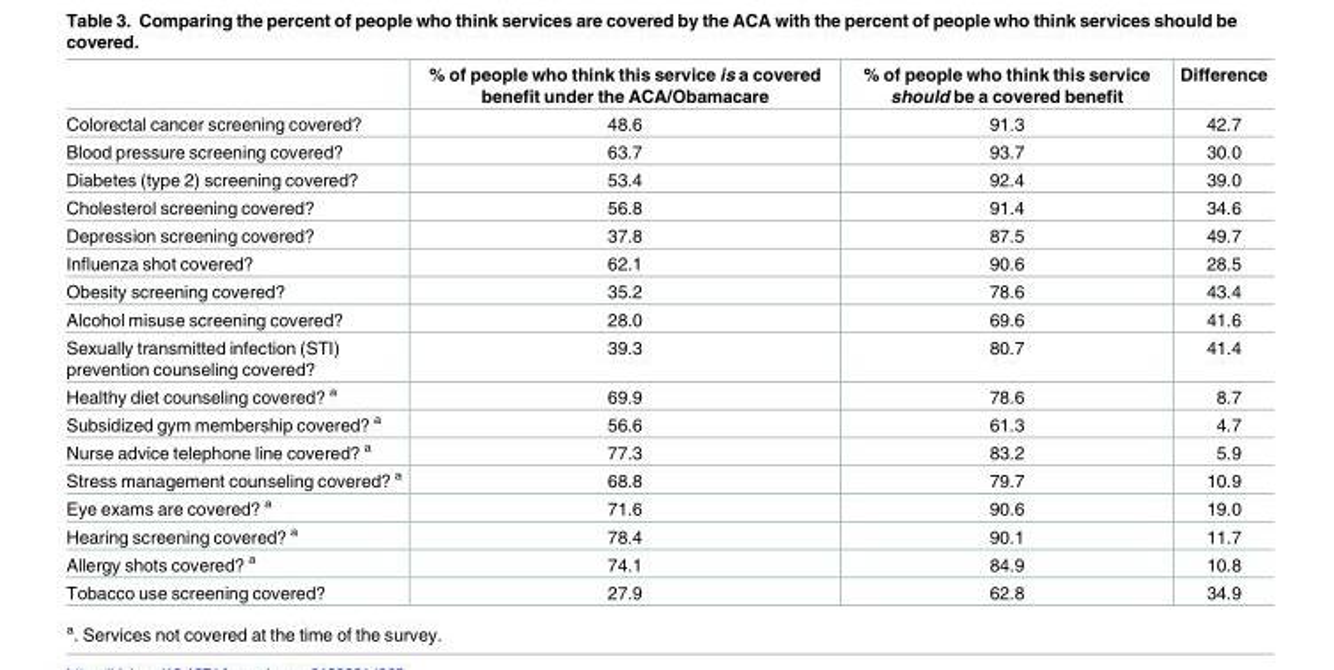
<table><thead><tr><td></td><td>% of people who think this service is a covered benefit under the ACA/Obamacare</td><td>% of people who think this service should be a covered benefit</td><td>Difference</td></tr></thead><tbody><tr><td>Colorectal cancer screening covered?</td><td>48.6</td><td>91.3</td><td>42.7</td></tr><tr><td>Blood pressure screening covered?</td><td>63.7</td><td>93.7</td><td>30.0</td></tr><tr><td>Diabetes (type 2) screening covered?</td><td>53.4</td><td>92.4</td><td>39.0</td></tr><tr><td>Cholesterol screening covered?</td><td>56.8</td><td>91.4</td><td>34.6</td></tr><tr><td>Depression screening covered?</td><td>37.8</td><td>87.5</td><td>49.7</td></tr><tr><td>Influenza shot covered?</td><td>62.1</td><td>90.6</td><td>28.5</td></tr><tr><td>Obesity screening covered?</td><td>35.2</td><td>78.6</td><td>43.4</td></tr><tr><td>Alcohol misuse screening covered?</td><td>28.0</td><td>69.6</td><td>41.6</td></tr><tr><td>Sexually transmitted infection (STI) prevention counseling covered?</td><td>39.3</td><td>80.7</td><td>41.4</td></tr><tr><td>Healthy diet counseling covered? <sup>a</sup></td><td>69.9</td><td>78.6</td><td>8.7</td></tr><tr><td>Subsidized gym membership covered? <sup>a</sup></td><td>56.6</td><td>61.3</td><td>4.7</td></tr><tr><td>Nurse advice telephone line covered? <sup>a</sup></td><td>77.3</td><td>83.2</td><td>5.9</td></tr><tr><td>Stress management counseling covered? <sup>a</sup></td><td>68.8</td><td>79.7</td><td>10.9</td></tr><tr><td>Eye exams are covered? <sup>a</sup></td><td>71.6</td><td>90.6</td><td>19.0</td></tr><tr><td>Hearing screening covered? <sup>a</sup></td><td>78.4</td><td>90.1</td><td>11.7</td></tr><tr><td>Allergy shots covered? <sup>a</sup></td><td>74.1</td><td>84.9</td><td>10.8</td></tr><tr><td>Tobacco use screening covered?</td><td>27.9</td><td>62.8</td><td>34.9</td></tr></tbody></table>